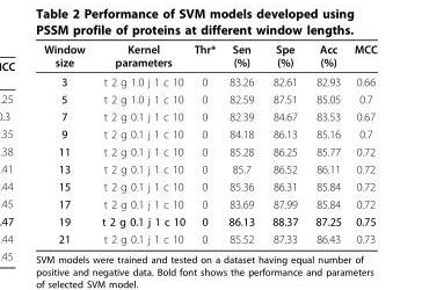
<table><thead><tr><td>Window size</td><td>Kernel parameters</td><td>Thr*</td><td>Sen (%)</td><td>Spe (%)</td><td>Acc (%)</td><td>MCC</td></tr></thead><tbody><tr><td>3</td><td>t 2 g 1.0 j 1 c 10</td><td>0</td><td>83.26</td><td>82.61</td><td>82.93</td><td>0.66</td></tr><tr><td>5</td><td>t 2 g 1.0 j 1 c 10</td><td>0</td><td>82.59</td><td>87.51</td><td>85.05</td><td>0.7</td></tr><tr><td>7</td><td>t 2 g 0.1 j 1 c 10</td><td>0</td><td>82.39</td><td>84.67</td><td>83.53</td><td>0.67</td></tr><tr><td>9</td><td>t 2 g 0.1 j 1 c 10</td><td>0</td><td>84.18</td><td>86.13</td><td>85.16</td><td>0.7</td></tr><tr><td>11</td><td>t 2 g 0.1 j 1 c 10</td><td>0</td><td>85.28</td><td>86.25</td><td>85.77</td><td>0.72</td></tr><tr><td>13</td><td>t 2 g 0.1 j 1 c 10</td><td>0</td><td>85.7</td><td>86.52</td><td>86.11</td><td>0.72</td></tr><tr><td>15</td><td>t 2 g 0.1 j 1 c 10</td><td>0</td><td>85.36</td><td>86.31</td><td>85.84</td><td>0.72</td></tr><tr><td>17</td><td>t 2 g 0.1 j 1 c 10</td><td>0</td><td>83.69</td><td>87.99</td><td>85.84</td><td>0.72</td></tr><tr><td>19</td><td>t 2 g 0.1 j 1 c 10</td><td>0</td><td>86.13</td><td>88.37</td><td>87.25</td><td>0.75</td></tr><tr><td>21</td><td>t 2 g 0.1 j 1 c 10</td><td>0</td><td>85.52</td><td>87.33</td><td>86.43</td><td>0.73</td></tr></tbody></table>